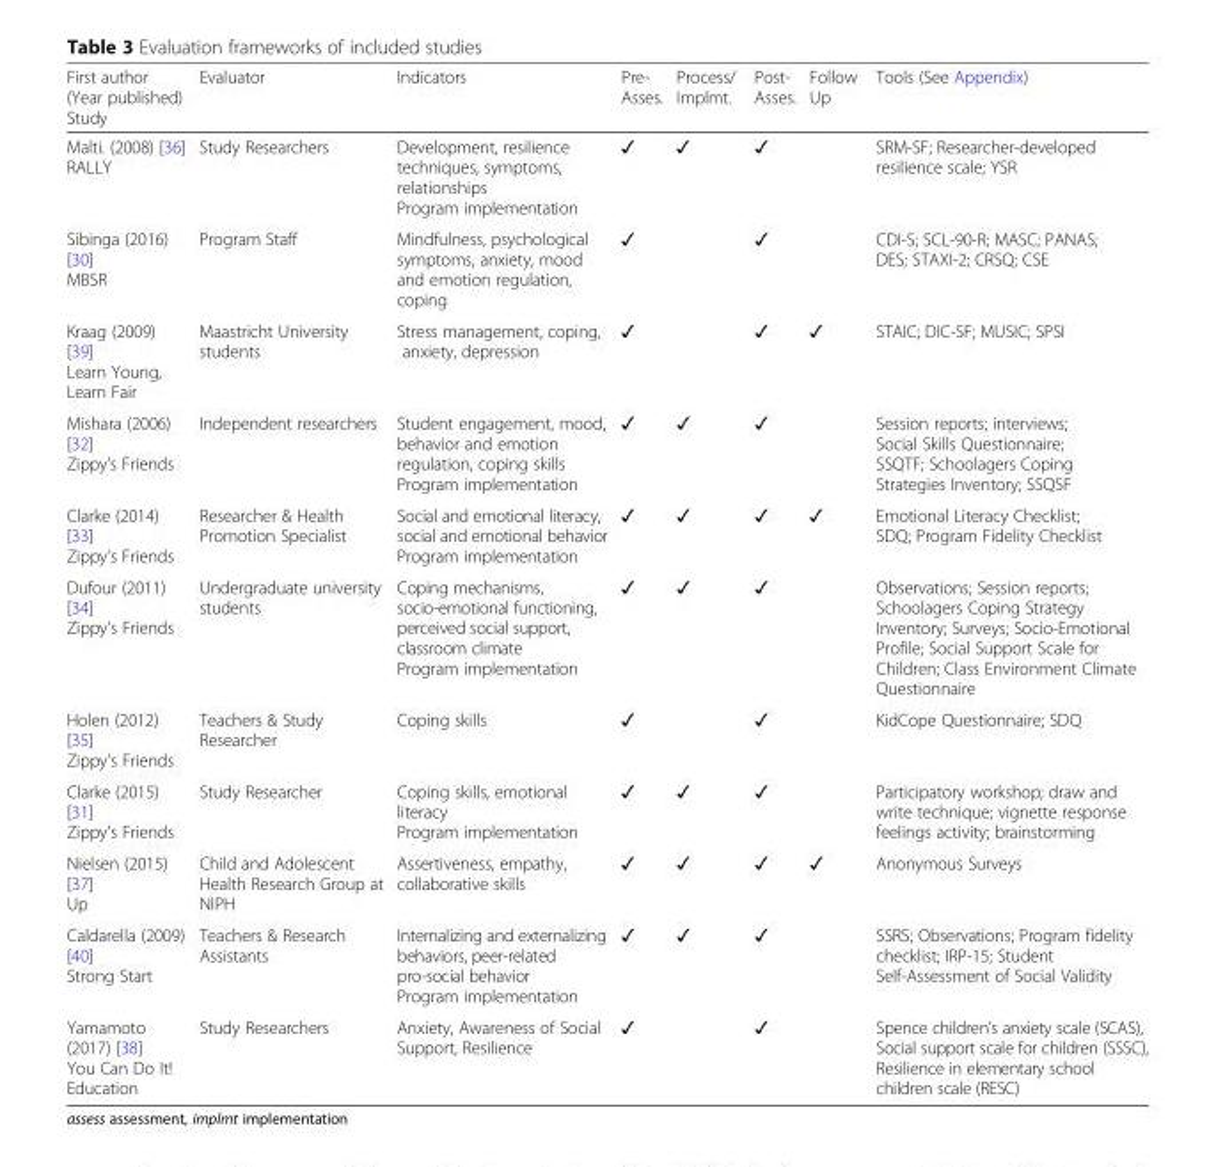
<table><thead><tr><td>First author (Year published) Study</td><td>Evaluator</td><td>Indicators</td><td>Pre- Asses.</td><td>Process/ Implmt.</td><td>Post- Asses.</td><td>Follow Up</td><td>Tools (See Appendix)</td></tr></thead><tbody><tr><td>Malti. (2008) [36] RALLY</td><td>Study Researchers</td><td>Development, resilience techniques, symptoms, relationships Program implementation</td><td>✓</td><td>✓</td><td>✓</td><td></td><td>SRM-SF; Researcher-developed resilience scale; YSR</td></tr><tr><td>Sibinga (2016) [30] MBSR</td><td>Program Staff</td><td>Mindfulness, psychological symptoms, anxiety, mood and emotion regulation, coping</td><td>✓</td><td></td><td>✓</td><td></td><td>CDI-S; SCL-90-R; MASC; PANAS; DES; STAXI-2; CRSQ; CSE</td></tr><tr><td>Kraag (2009) [39] Learn Young, Learn Fair</td><td>Maastricht University students</td><td>Stress management, coping, anxiety, depression</td><td>✓</td><td></td><td>✓</td><td>✓</td><td>STAIC; DIC-SF; MUSIC; SPSI</td></tr><tr><td>Mishara (2006) [32] Zippy’s Friends</td><td>Independent researchers</td><td>Student engagement, mood, behavior and emotion regulation, coping skills Program implementation</td><td>✓</td><td>✓</td><td>✓</td><td></td><td>Session reports; interviews; Social Skills Questionnaire; SSQTF; Schoolagers Coping Strategies Inventory; SSQSF</td></tr><tr><td>Clarke (2014) [33] Zippy’s Friends</td><td>Researcher &amp; Health Promotion Specialist</td><td>Social and emotional literacy, social and emotional behavior Program implementation</td><td>✓</td><td>✓</td><td>✓</td><td>✓</td><td>Emotional Literacy Checklist; SDQ; Program Fidelity Checklist</td></tr><tr><td>Dufour (2011) [34] Zippy’s Friends</td><td>Undergraduate university students</td><td>Coping mechanisms, socio-emotional functioning, perceived social support, classroom climate Program implementation</td><td>✓</td><td>✓</td><td>✓</td><td></td><td>Observations; Session reports; Schoolagers Coping Strategy Inventory; Surveys; Socio-Emotional Profile; Social Support Scale for Children; Class Environment Climate Questionnaire</td></tr><tr><td>Holen (2012) [35] Zippy’s Friends</td><td>Teachers &amp; Study Researcher</td><td>Coping skills</td><td>✓</td><td></td><td>✓</td><td></td><td>KidCope Questionnaire; SDQ</td></tr><tr><td>Clarke (2015) [31] Zippy’s Friends</td><td>Study Researcher</td><td>Coping skills, emotional literacy Program implementation</td><td>✓</td><td>✓</td><td>✓</td><td></td><td>Participatory workshop; draw and write technique; vignette response feelings activity; brainstorming</td></tr><tr><td>Nielsen (2015) [37] Up</td><td>Child and Adolescent Health Research Group at NIPH</td><td>Assertiveness, empathy, collaborative skills</td><td>✓</td><td>✓</td><td>✓</td><td>✓</td><td>Anonymous Surveys</td></tr><tr><td>Caldarella (2009) [40] Strong Start</td><td>Teachers &amp; Research Assistants</td><td>Internalizing and externalizing behaviors, peer-related pro-social behavior Program implementation</td><td>✓</td><td>✓</td><td>✓</td><td></td><td>SSRS; Observations; Program fidelity checklist; IRP-15; Student Self-Assessment of Social Validity</td></tr><tr><td>Yamamoto (2017) [38] You Can Do It! Education</td><td>Study Researchers</td><td>Anxiety, Awareness of Social Support, Resilience</td><td>✓</td><td></td><td>✓</td><td></td><td>Spence children’s anxiety scale (SCAS), Social support scale for children (SSSC), Resilience in elementary school children scale (RESC)</td></tr></tbody></table>